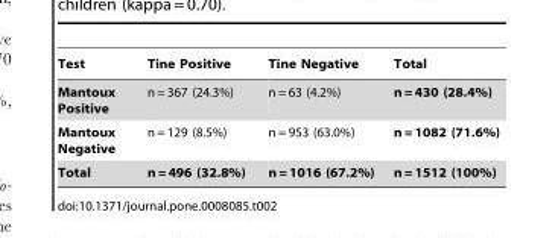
<table><thead><tr><td>Test</td><td>Tine Positive</td><td>Tine Negative</td><td>Total</td></tr></thead><tbody><tr><td>Mantoux Positive</td><td>n = 367 (24.3%)</td><td>n = 63 (4.2%)</td><td>n = 430 (28.4%)</td></tr><tr><td>Mantoux Negative</td><td>n = 129 (8.5%)</td><td>n = 953 (63.0%)</td><td>n = 1082 (71.6%)</td></tr><tr><td>Total</td><td>n = 496 (32.8%)</td><td>n = 1016 (67.2%)</td><td>n = 1512 (100%)</td></tr></tbody></table>